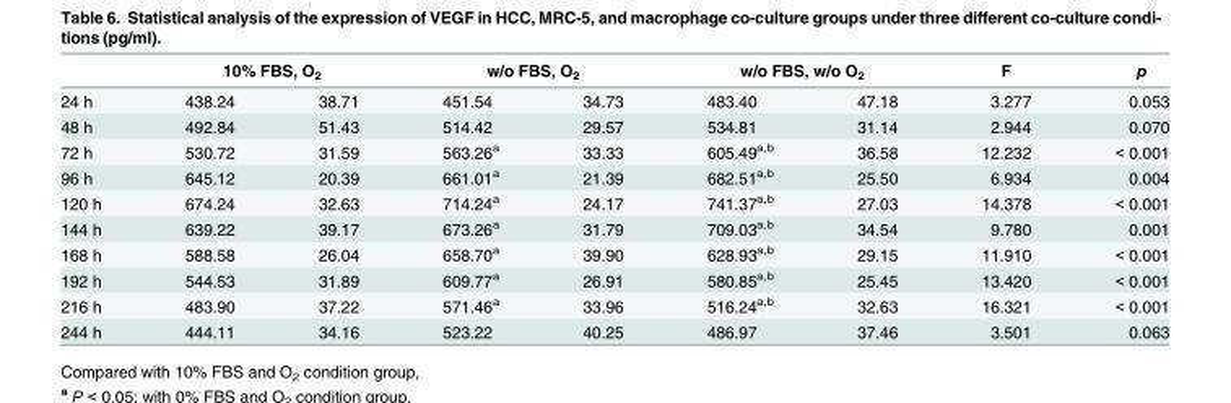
<table><thead><tr><td rowspan="2">24 h</td><td colspan="2">10% FBS, O<sub>2</sub></td><td colspan="2">w/o FBS, O<sub>2</sub></td><td colspan="2">w/o FBS, w/o O<sub>2</sub></td><td rowspan="2">F 3.277</td><td rowspan="2">p 0.053</td></tr><tr><td>438.24</td><td>38.71</td><td>451.54</td><td>34.73</td><td>483.40</td><td>47.18</td></tr></thead><tbody><tr><td>48 h</td><td>492.84</td><td>51.43</td><td>514.42</td><td>29.57</td><td>534.81</td><td>31.14</td><td>2.944</td><td>0.070</td></tr><tr><td>72 h</td><td>530.72</td><td>31.59</td><td>563.26<sup>a</sup></td><td>33.33</td><td>605.49<sup>a,b</sup></td><td>36.58</td><td>12.232</td><td>&lt; 0.001</td></tr><tr><td>96 h</td><td>645.12</td><td>20.39</td><td>661.01<sup>a</sup></td><td>21.39</td><td>682.51<sup>a,b</sup></td><td>25.50</td><td>6.934</td><td>0.004</td></tr><tr><td>120 h</td><td>674.24</td><td>32.63</td><td>714.24<sup>a</sup></td><td>24.17</td><td>741.37<sup>a,b</sup></td><td>27.03</td><td>14.378</td><td>&lt; 0.001</td></tr><tr><td>144 h</td><td>639.22</td><td>39.17</td><td>673.26<sup>a</sup></td><td>31.79</td><td>709.03<sup>a,b</sup></td><td>34.54</td><td>9.780</td><td>0.001</td></tr><tr><td>168 h</td><td>588.58</td><td>26.04</td><td>658.70<sup>a</sup></td><td>39.90</td><td>628.93<sup>a,b</sup></td><td>29.15</td><td>11.910</td><td>&lt; 0.001</td></tr><tr><td>192 h</td><td>544.53</td><td>31.89</td><td>609.77<sup>a</sup></td><td>26.91</td><td>580.85<sup>a,b</sup></td><td>25.45</td><td>13.420</td><td>&lt; 0.001</td></tr><tr><td>216 h</td><td>483.90</td><td>37.22</td><td>571.46<sup>a</sup></td><td>33.96</td><td>516.24<sup>a,b</sup></td><td>32.63</td><td>16.321</td><td>&lt; 0.001</td></tr><tr><td>244 h</td><td>444.11</td><td>34.16</td><td>523.22</td><td>40.25</td><td>486.97</td><td>37.46</td><td>3.501</td><td>0.063</td></tr></tbody></table>